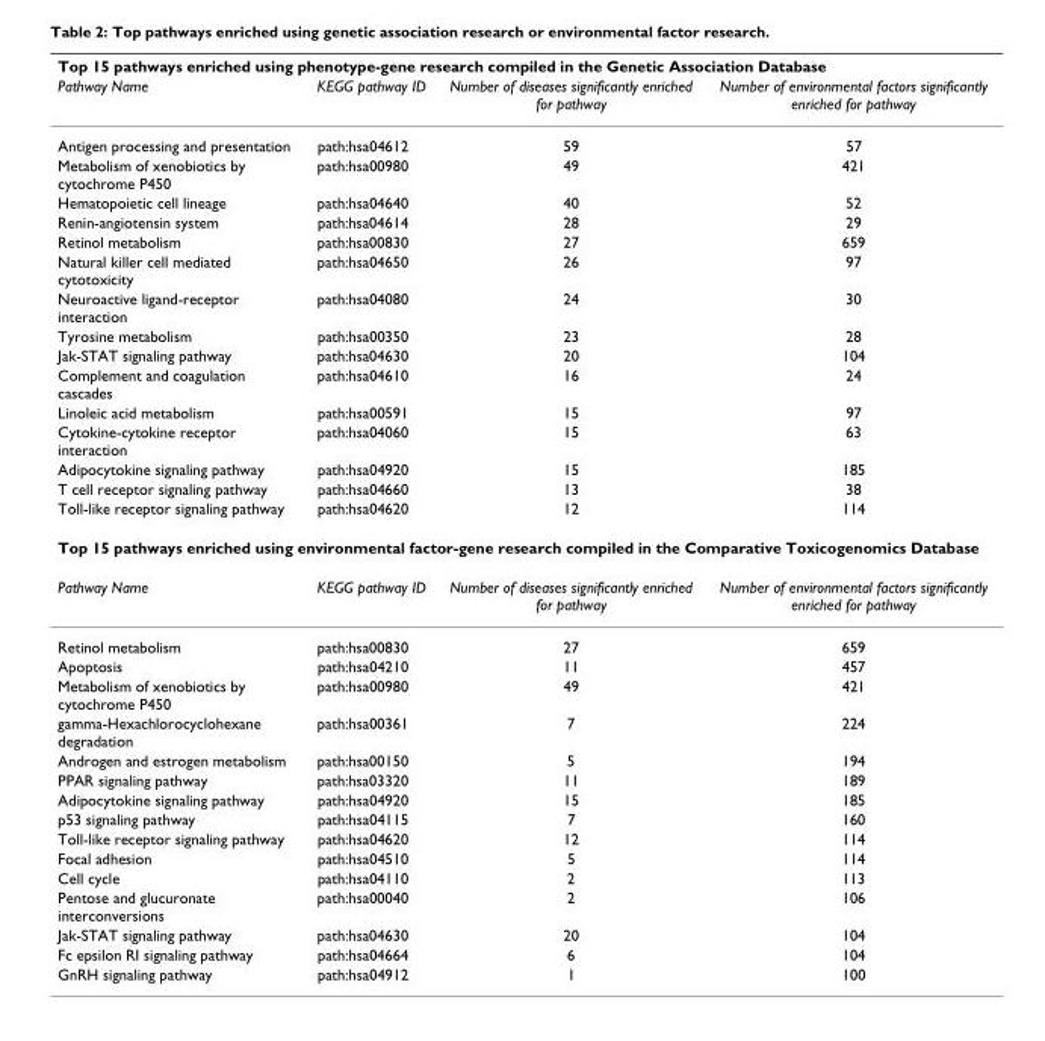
<table><thead><tr><td colspan="4">Top 15 pathways enriched using phenotype-gene research compiled in the Genetic Association Database</td></tr><tr><td>Pathway Name</td><td>KEGG pathway ID</td><td>Number of diseases significantly enriched for pathway</td><td>Number of environmental factors significantly enriched for pathway</td></tr></thead><tbody><tr><td>Antigen processing and presentation</td><td>path:hsa04612</td><td>59</td><td>57</td></tr><tr><td>Metabolism of xenobiotics by cytochrome P450</td><td>path:hsa00980</td><td>49</td><td>421</td></tr><tr><td>Hematopoietic cell lineage</td><td>path:hsa04640</td><td>40</td><td>52</td></tr><tr><td>Renin-angiotensin system</td><td>path:hsa04614</td><td>28</td><td>29</td></tr><tr><td>Retinol metabolism</td><td>path:hsa00830</td><td>27</td><td>659</td></tr><tr><td>Natural killer cell mediated cytotoxicity</td><td>path:hsa04650</td><td>26</td><td>97</td></tr><tr><td>Neuroactive ligand-receptor interaction</td><td>path:hsa04080</td><td>24</td><td>30</td></tr><tr><td>Tyrosine metabolism</td><td>path:hsa00350</td><td>23</td><td>28</td></tr><tr><td>Jak-STAT signaling pathway</td><td>path:hsa04630</td><td>20</td><td>104</td></tr><tr><td>Complement and coagulation cascades</td><td>path:hsa04610</td><td>16</td><td>24</td></tr><tr><td>Linoleic acid metabolism</td><td>path:hsa00591</td><td>15</td><td>97</td></tr><tr><td>Cytokine-cytokine receptor interaction</td><td>path:hsa04060</td><td>15</td><td>63</td></tr><tr><td>Adipocytokine signaling pathway</td><td>path:hsa04920</td><td>15</td><td>185</td></tr><tr><td>T cell receptor signaling pathway</td><td>path:hsa04660</td><td>13</td><td>38</td></tr><tr><td>Toll-like receptor signaling pathway</td><td>path:hsa04620</td><td>12</td><td>114</td></tr><tr><td colspan="4">Top 15 pathways enriched using environmental factor-gene research compiled in the Comparative Toxicogenomics Database</td></tr><tr><td>Pathway Name</td><td>KEGG pathway ID</td><td>Number of diseases significantly enriched for pathway</td><td>Number of environmental factors significantly enriched for pathway</td></tr><tr><td>Retinol metabolism</td><td>path:hsa00830</td><td>27</td><td>659</td></tr><tr><td>Apoptosis</td><td>path:hsa04210</td><td>11</td><td>457</td></tr><tr><td>Metabolism of xenobiotics by cytochrome P450</td><td>path:hsa00980</td><td>49</td><td>421</td></tr><tr><td>gamma-Hexachlorocyclohexane degradation</td><td>path:hsa00361</td><td>7</td><td>224</td></tr><tr><td>Androgen and estrogen metabolism</td><td>path:hsa00150</td><td>5</td><td>194</td></tr><tr><td>PPAR signaling pathway</td><td>path:hsa03320</td><td>11</td><td>189</td></tr><tr><td>Adipocytokine signaling pathway</td><td>path:hsa04920</td><td>15</td><td>185</td></tr><tr><td>p53 signaling pathway</td><td>path:hsa04115</td><td>7</td><td>160</td></tr><tr><td>Toll-like receptor signaling pathway</td><td>path:hsa04620</td><td>12</td><td>114</td></tr><tr><td>Focal adhesion</td><td>path:hsa04510</td><td>5</td><td>114</td></tr><tr><td>Cell cycle</td><td>path:hsa04110</td><td>2</td><td>113</td></tr><tr><td>Pentose and glucuronate interconversions</td><td>path:hsa00040</td><td>2</td><td>106</td></tr><tr><td>Jak-STAT signaling pathway</td><td>path:hsa04630</td><td>20</td><td>104</td></tr><tr><td>Fc epsilon RI signaling pathway</td><td>path:hsa04664</td><td>6</td><td>104</td></tr><tr><td>GnRH signaling pathway</td><td>path:hsa04912</td><td>1</td><td>100</td></tr></tbody></table>